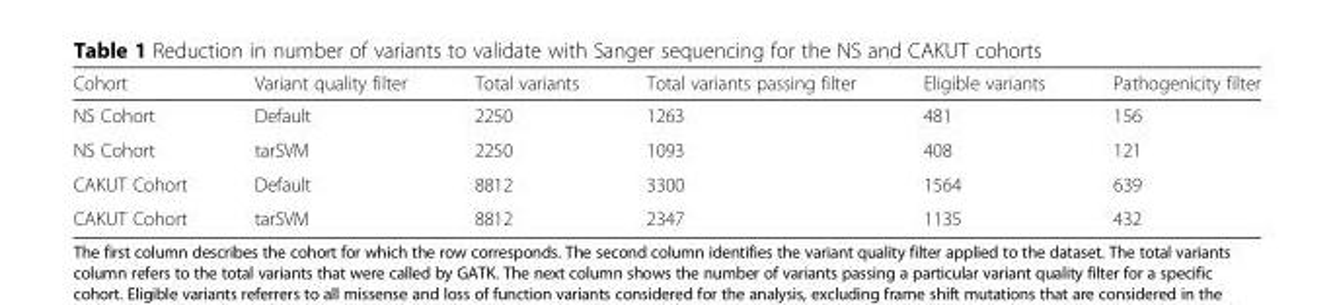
<table><thead><tr><td>Cohort</td><td>Variant quality filter</td><td>Total variants</td><td>Total variants passing filter</td><td>Eligible variants</td><td>Pathogenicity filter</td></tr></thead><tbody><tr><td>NS Cohort</td><td>Default</td><td>2250</td><td>1263</td><td>481</td><td>156</td></tr><tr><td>NS Cohort</td><td>tarSVM</td><td>2250</td><td>1093</td><td>408</td><td>121</td></tr><tr><td>CAKUT Cohort</td><td>Default</td><td>8812</td><td>3300</td><td>1564</td><td>639</td></tr><tr><td>CAKUT Cohort</td><td>tarSVM</td><td>8812</td><td>2347</td><td>1135</td><td>432</td></tr></tbody></table>